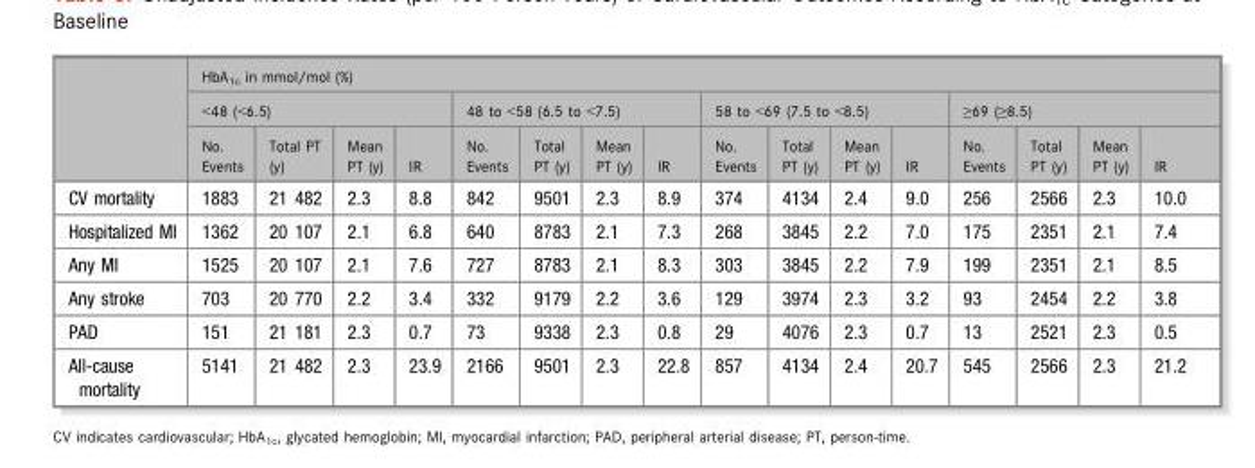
<table><thead><tr><td rowspan="3"></td><td colspan="16">HbA<sub>1c</sub> in mmol/mol (%)</td></tr><tr><td colspan="4">&lt;48 (&lt;6.5)</td><td colspan="4">48 to &lt;58 (6.5 to &lt;7.5)</td><td colspan="4">58 to &lt;69 (7.5 to &lt;8.5)</td><td colspan="4">≥69 (≥8.5)</td></tr><tr><td>No. Events</td><td>Total PT (y)</td><td>Mean PT (y)</td><td>IR</td><td>No. Events</td><td>Total PT (y)</td><td>Mean PT (y)</td><td>IR</td><td>No. Events</td><td>Total PT (y)</td><td>Mean PT (y)</td><td>IR</td><td>No. Events</td><td>Total PT (y)</td><td>Mean PT (y)</td><td>IR</td></tr></thead><tbody><tr><td>CV mortality</td><td>1883</td><td>21 482</td><td>2.3</td><td>8.8</td><td>842</td><td>9501</td><td>2.3</td><td>8.9</td><td>374</td><td>4134</td><td>2.4</td><td>9.0</td><td>256</td><td>2566</td><td>2.3</td><td>10.0</td></tr><tr><td>Hospitalized MI</td><td>1362</td><td>20 107</td><td>2.1</td><td>6.8</td><td>640</td><td>8783</td><td>2.1</td><td>7.3</td><td>268</td><td>3845</td><td>2.2</td><td>7.0</td><td>175</td><td>2351</td><td>2.1</td><td>7.4</td></tr><tr><td>Any MI</td><td>1525</td><td>20 107</td><td>2.1</td><td>7.6</td><td>727</td><td>8783</td><td>2.1</td><td>8.3</td><td>303</td><td>3845</td><td>2.2</td><td>7.9</td><td>199</td><td>2351</td><td>2.1</td><td>8.5</td></tr><tr><td>Any stroke</td><td>703</td><td>20 770</td><td>2.2</td><td>3.4</td><td>332</td><td>9179</td><td>2.2</td><td>3.6</td><td>129</td><td>3974</td><td>2.3</td><td>3.2</td><td>93</td><td>2454</td><td>2.2</td><td>3.8</td></tr><tr><td>PAD</td><td>151</td><td>21 181</td><td>2.3</td><td>0.7</td><td>73</td><td>9338</td><td>2.3</td><td>0.8</td><td>29</td><td>4076</td><td>2.3</td><td>0.7</td><td>13</td><td>2521</td><td>2.3</td><td>0.5</td></tr><tr><td>All-cause mortality</td><td>5141</td><td>21 482</td><td>2.3</td><td>23.9</td><td>2166</td><td>9501</td><td>2.3</td><td>22.8</td><td>857</td><td>4134</td><td>2.4</td><td>20.7</td><td>545</td><td>2566</td><td>2.3</td><td>21.2</td></tr></tbody></table>